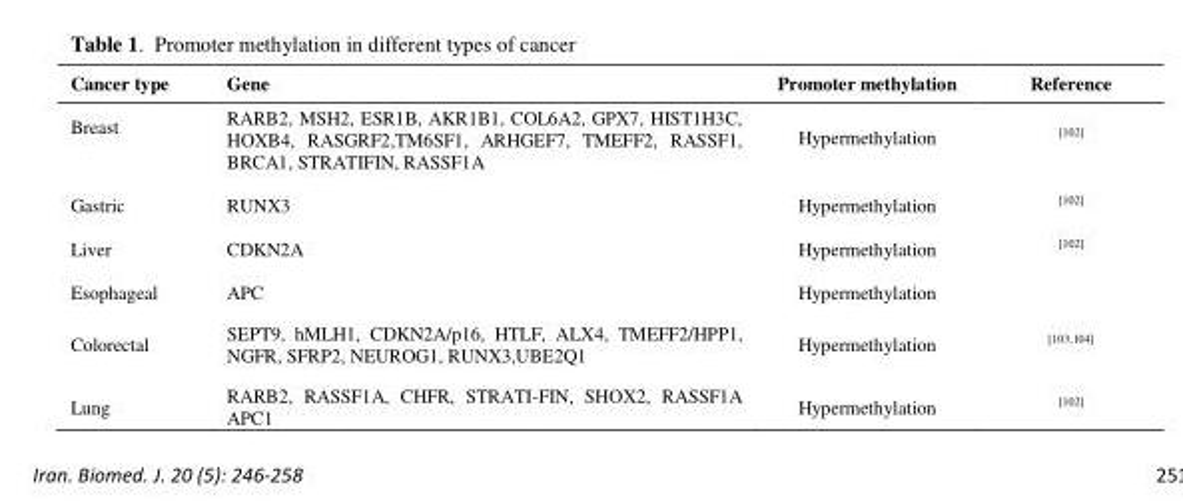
<table><thead><tr><td>Cancer type</td><td>Gene</td><td>Promoter methylation</td><td>Reference</td></tr></thead><tbody><tr><td>Breast</td><td>RARB2, MSH2, ESR1B, AKR1B1, COL6A2, GPX7, HIST1H3C, HOXB4, RASGRF2,TM6SF1, ARHGEF7, TMEFF2, RASSF1, BRCA1, STRATIFIN, RASSF1A</td><td>Hypermethylation</td><td>[102]</td></tr><tr><td>Gastric</td><td>RUNX3</td><td>Hypermethylation</td><td>[102]</td></tr><tr><td>Liver</td><td>CDKN2A</td><td>Hypermethylation</td><td>[102]</td></tr><tr><td>Esophageal</td><td>APC</td><td>Hypermethylation</td><td></td></tr><tr><td>Colorectal</td><td>SEPT9, hMLH1, CDKN2A/p16, HTLF, ALX4, TMEFF2/HPP1, NGFR, SFRP2, NEUROG1, RUNX3,UBE2Q1</td><td>Hypermethylation</td><td>[103,104]</td></tr><tr><td>Lung</td><td>RARB2, RASSF1A, CHFR, STRATI-FIN, SHOX2, RASSF1A APC1</td><td>Hypermethylation</td><td>[102]</td></tr></tbody></table>